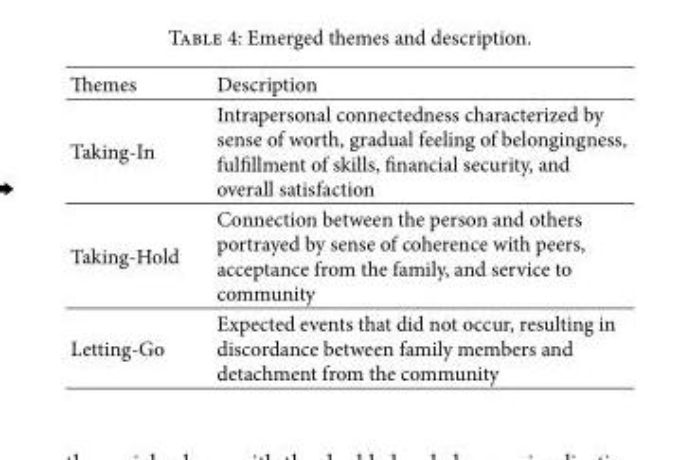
<table><thead><tr><td>Themes</td><td>Description</td></tr></thead><tbody><tr><td>Taking-In</td><td>Intrapersonal connectedness characterized by sense of worth, gradual feeling of belongingness, fulfillment of skills, financial security, and overall satisfaction</td></tr><tr><td>Taking-Hold</td><td>Connection between the person and others portrayed by sense of coherence with peers, acceptance from the family, and service to community</td></tr><tr><td>Letting-Go</td><td>Expected events that did not occur, resulting in discordance between family members and detachment from the community</td></tr></tbody></table>